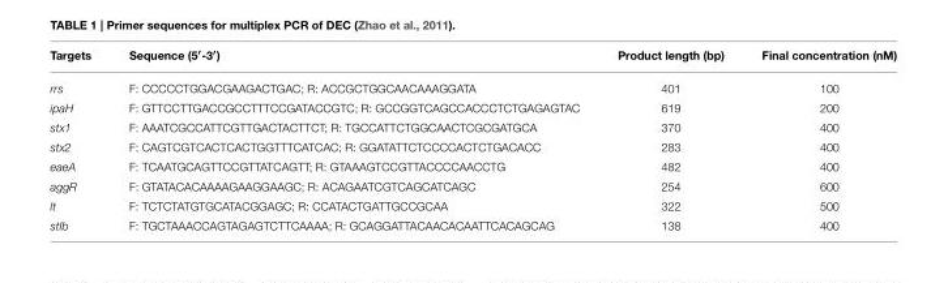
<table><thead><tr><td>Targets</td><td>Sequence (5′-3′)</td><td>Product length (bp)</td><td>Final concentration (nM)</td></tr></thead><tbody><tr><td>rrs</td><td>F: CCCCCTGGACGAAGACTGAC; R: ACCGCTGGCAACAAAGGATA</td><td>401</td><td>100</td></tr><tr><td>ipaH</td><td>F: GTTCCTTGACCGCCTTTCCGATACCGTC; R: GCCGGTCAGCCACCCTCTGAGAGTAC</td><td>619</td><td>200</td></tr><tr><td>stx1</td><td>F: AAATCGCCATTCGTTGACTACTTCT; R: TGCCATTCTGGCAACTCGCGATGCA</td><td>370</td><td>400</td></tr><tr><td>stx2</td><td>F: CAGTCGTCACTCACTGGTTTCATCAC; R: GGATATTCTCCCCACTCTGACACC</td><td>283</td><td>400</td></tr><tr><td>eaeA</td><td>F: TCAATGCAGTTCCGTTATCAGTT; R: GTAAAGTCCGTTACCCCAACCTG</td><td>482</td><td>400</td></tr><tr><td>aggR</td><td>F: GTATACACAAAAGAAGGAAGC; R: ACAGAATCGTCAGCATCAGC</td><td>254</td><td>600</td></tr><tr><td>lt</td><td>F: TCTCTATGTGCATACGGAGC; R: CCATACTGATTGCCGCAA</td><td>322</td><td>500</td></tr><tr><td>stIb</td><td>F: TGCTAAACCAGTAGAGTCTTCAAAA; R: GCAGGATTACAACACAATTCACAGCAG</td><td>138</td><td>400</td></tr></tbody></table>